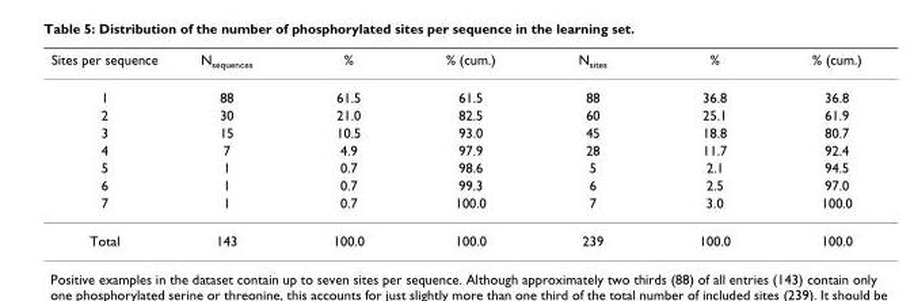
<table><thead><tr><td>Sites per sequence</td><td>N<sub>sequences</sub></td><td>%</td><td>% (cum.)</td><td>N<sub>sites</sub></td><td>%</td><td>% (cum.)</td></tr></thead><tbody><tr><td>1</td><td>88</td><td>61.5</td><td>61.5</td><td>88</td><td>36.8</td><td>36.8</td></tr><tr><td>2</td><td>30</td><td>21.0</td><td>82.5</td><td>60</td><td>25.1</td><td>61.9</td></tr><tr><td>3</td><td>15</td><td>10.5</td><td>93.0</td><td>45</td><td>18.8</td><td>80.7</td></tr><tr><td>4</td><td>7</td><td>4.9</td><td>97.9</td><td>28</td><td>11.7</td><td>92.4</td></tr><tr><td>5</td><td>1</td><td>0.7</td><td>98.6</td><td>5</td><td>2.1</td><td>94.5</td></tr><tr><td>6</td><td>1</td><td>0.7</td><td>99.3</td><td>6</td><td>2.5</td><td>97.0</td></tr><tr><td>7</td><td>1</td><td>0.7</td><td>100.0</td><td>7</td><td>3.0</td><td>100.0</td></tr><tr><td>Total</td><td>143</td><td>100.0</td><td>100.0</td><td>239</td><td>100.0</td><td>100.0</td></tr></tbody></table>